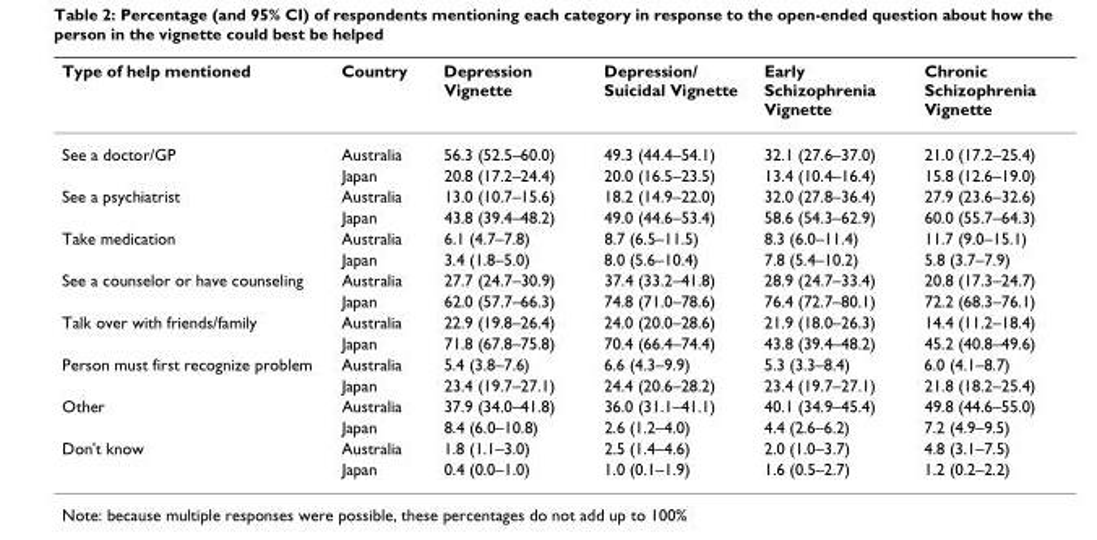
<table><thead><tr><td>Type of help mentioned</td><td>Country</td><td>Depression Vignette</td><td>Depression/ Suicidal Vignette</td><td>Early Schizophrenia Vignette</td><td>Chronic Schizophrenia Vignette</td></tr></thead><tbody><tr><td rowspan="2">See a doctor/GP</td><td>Australia</td><td>56.3 (52.5–60.0)</td><td>49.3 (44.4–54.1)</td><td>32.1 (27.6–37.0)</td><td>21.0 (17.2–25.4)</td></tr><tr><td>Japan</td><td>20.8 (17.2–24.4)</td><td>20.0 (16.5–23.5)</td><td>13.4 (10.4–16.4)</td><td>15.8 (12.6–19.0)</td></tr><tr><td rowspan="2">See a psychiatrist</td><td>Australia</td><td>13.0 (10.7–15.6)</td><td>18.2 (14.9–22.0)</td><td>32.0 (27.8–36.4)</td><td>27.9 (23.6–32.6)</td></tr><tr><td>Japan</td><td>43.8 (39.4–48.2)</td><td>49.0 (44.6–53.4)</td><td>58.6 (54.3–62.9)</td><td>60.0 (55.7–64.3)</td></tr><tr><td rowspan="2">Take medication</td><td>Australia</td><td>6.1 (4.7–7.8)</td><td>8.7 (6.5–11.5)</td><td>8.3 (6.0–11.4)</td><td>11.7 (9.0–15.1)</td></tr><tr><td>Japan</td><td>3.4 (1.8–5.0)</td><td>8.0 (5.6–10.4)</td><td>7.8 (5.4–10.2)</td><td>5.8 (3.7–7.9)</td></tr><tr><td rowspan="2">See a counselor or have counseling</td><td>Australia</td><td>27.7 (24.7–30.9)</td><td>37.4 (33.2–41.8)</td><td>28.9 (24.7–33.4)</td><td>20.8 (17.3–24.7)</td></tr><tr><td>Japan</td><td>62.0 (57.7–66.3)</td><td>74.8 (71.0–78.6)</td><td>76.4 (72.7–80.1)</td><td>72.2 (68.3–76.1)</td></tr><tr><td rowspan="2">Talk over with friends/family</td><td>Australia</td><td>22.9 (19.8–26.4)</td><td>24.0 (20.0–28.6)</td><td>21.9 (18.0–26.3)</td><td>14.4 (11.2–18.4)</td></tr><tr><td>Japan</td><td>71.8 (67.8–75.8)</td><td>70.4 (66.4–74.4)</td><td>43.8 (39.4–48.2)</td><td>45.2 (40.8–49.6)</td></tr><tr><td rowspan="2">Person must first recognize problem</td><td>Australia</td><td>5.4 (3.8–7.6)</td><td>6.6 (4.3–9.9)</td><td>5.3 (3.3–8.4)</td><td>6.0 (4.1–8.7)</td></tr><tr><td>Japan</td><td>23.4 (19.7–27.1)</td><td>24.4 (20.6–28.2)</td><td>23.4 (19.7–27.1)</td><td>21.8 (18.2–25.4)</td></tr><tr><td rowspan="2">Other</td><td>Australia</td><td>37.9 (34.0–41.8)</td><td>36.0 (31.1–41.1)</td><td>40.1 (34.9–45.4)</td><td>49.8 (44.6–55.0)</td></tr><tr><td>Japan</td><td>8.4 (6.0–10.8)</td><td>2.6 (1.2–4.0)</td><td>4.4 (2.6–6.2)</td><td>7.2 (4.9–9.5)</td></tr><tr><td rowspan="2">Don&#x27;t know</td><td>Australia</td><td>1.8 (1.1–3.0)</td><td>2.5 (1.4–4.6)</td><td>2.0 (1.0–3.7)</td><td>4.8 (3.1–7.5)</td></tr><tr><td>Japan</td><td>0.4 (0.0–1.0)</td><td>1.0 (0.1–1.9)</td><td>1.6 (0.5–2.7)</td><td>1.2 (0.2–2.2)</td></tr></tbody></table>